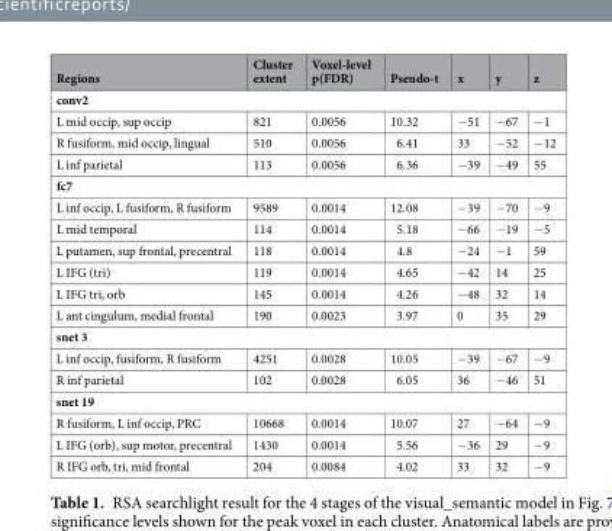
<table><thead><tr><td>Regions</td><td>Cluster extent</td><td>Voxel-level p(FDR)</td><td>Pseudo-t</td><td>x</td><td>y</td><td>z</td></tr></thead><tbody><tr><td colspan="7">conv2</td></tr><tr><td>L mid occip, sup occip</td><td>821</td><td>0.0056</td><td>10.32</td><td>−51</td><td>−67</td><td>−1</td></tr><tr><td>R fusiform, mid occip, lingual</td><td>510</td><td>0.0056</td><td>6.41</td><td>33</td><td>−52</td><td>−12</td></tr><tr><td>L inf parietal</td><td>113</td><td>0.0056</td><td>6.36</td><td>−39</td><td>−49</td><td>55</td></tr><tr><td colspan="7">fc7</td></tr><tr><td>L inf occip, L fusiform, R fusiform</td><td>9589</td><td>0.0014</td><td>12.08</td><td>−39</td><td>−70</td><td>−9</td></tr><tr><td>L mid temporal</td><td>114</td><td>0.0014</td><td>5.18</td><td>−66</td><td>−19</td><td>−5</td></tr><tr><td>L putamen, sup frontal, precentral</td><td>118</td><td>0.0014</td><td>4.8</td><td>−24</td><td>−1</td><td>59</td></tr><tr><td>L IFG (tri)</td><td>119</td><td>0.0014</td><td>4.65</td><td>−42</td><td>14</td><td>25</td></tr><tr><td>L IFG tri, orb</td><td>145</td><td>0.0014</td><td>4.26</td><td>−48</td><td>32</td><td>14</td></tr><tr><td>L ant cingulum, medial frontal</td><td>190</td><td>0.0023</td><td>3.97</td><td>0</td><td>35</td><td>29</td></tr><tr><td colspan="7">snet 3</td></tr><tr><td>L inf occip, fusiform, R fusiform</td><td>4251</td><td>0.0028</td><td>10.05</td><td>−39</td><td>−67</td><td>−9</td></tr><tr><td>R inf parietal</td><td>102</td><td>0.0028</td><td>6.05</td><td>36</td><td>−46</td><td>51</td></tr><tr><td colspan="7">snet 19</td></tr><tr><td>R fusiform, L inf occip, PRC</td><td>10668</td><td>0.0014</td><td>10.07</td><td>27</td><td>−64</td><td>−9</td></tr><tr><td>L IFG (orb), sup motor, precentral</td><td>1430</td><td>0.0014</td><td>5.56</td><td>−36</td><td>29</td><td>−9</td></tr><tr><td>R IFG orb, tri, mid frontal</td><td>204</td><td>0.0084</td><td>4.02</td><td>33</td><td>32</td><td>−9</td></tr></tbody></table>